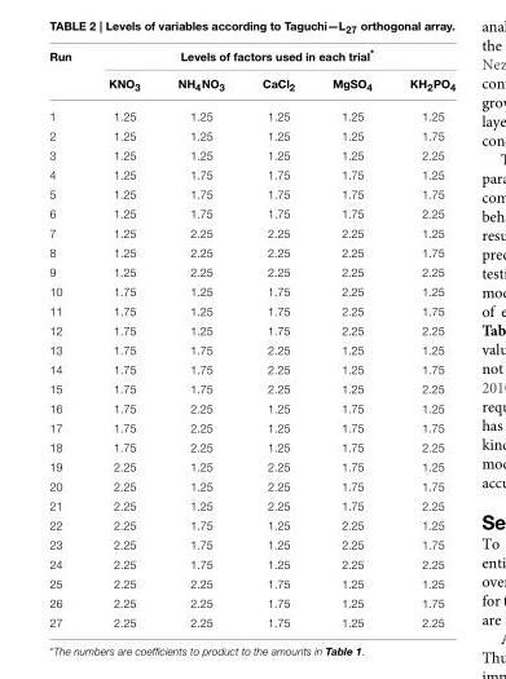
<table><thead><tr><td rowspan="2">Run</td><td colspan="5">Levels of factors used in each trial*</td></tr><tr><td>KNO<sub>3</sub></td><td>NH<sub>4</sub>NO<sub>3</sub></td><td>CaCl<sub>2</sub></td><td>MgSO<sub>4</sub></td><td>KH<sub>2</sub>PO<sub>4</sub></td></tr></thead><tbody><tr><td>1</td><td>1.25</td><td>1.25</td><td>1.25</td><td>1.25</td><td>1.25</td></tr><tr><td>2</td><td>1.25</td><td>1.25</td><td>1.25</td><td>1.25</td><td>1.75</td></tr><tr><td>3</td><td>1.25</td><td>1.25</td><td>1.25</td><td>1.25</td><td>2.25</td></tr><tr><td>4</td><td>1.25</td><td>1.75</td><td>1.75</td><td>1.75</td><td>1.25</td></tr><tr><td>5</td><td>1.25</td><td>1.75</td><td>1.75</td><td>1.75</td><td>1.75</td></tr><tr><td>6</td><td>1.25</td><td>1.75</td><td>1.75</td><td>1.75</td><td>2.25</td></tr><tr><td>7</td><td>1.25</td><td>2.25</td><td>2.25</td><td>2.25</td><td>1.25</td></tr><tr><td>8</td><td>1.25</td><td>2.25</td><td>2.25</td><td>2.25</td><td>1.75</td></tr><tr><td>9</td><td>1.25</td><td>2.25</td><td>2.25</td><td>2.25</td><td>2.25</td></tr><tr><td>10</td><td>1.75</td><td>1.25</td><td>1.75</td><td>2.25</td><td>1.25</td></tr><tr><td>11</td><td>1.75</td><td>1.25</td><td>1.75</td><td>2.25</td><td>1.75</td></tr><tr><td>12</td><td>1.75</td><td>1.25</td><td>1.75</td><td>2.25</td><td>2.25</td></tr><tr><td>13</td><td>1.75</td><td>1.75</td><td>2.25</td><td>1.25</td><td>1.25</td></tr><tr><td>14</td><td>1.75</td><td>1.75</td><td>2.25</td><td>1.25</td><td>1.75</td></tr><tr><td>15</td><td>1.75</td><td>1.75</td><td>2.25</td><td>1.25</td><td>2.25</td></tr><tr><td>16</td><td>1.75</td><td>2.25</td><td>1.25</td><td>1.75</td><td>1.25</td></tr><tr><td>17</td><td>1.75</td><td>2.25</td><td>1.25</td><td>1.75</td><td>1.75</td></tr><tr><td>18</td><td>1.75</td><td>2.25</td><td>1.25</td><td>1.75</td><td>2.25</td></tr><tr><td>19</td><td>2.25</td><td>1.25</td><td>2.25</td><td>1.75</td><td>1.25</td></tr><tr><td>20</td><td>2.25</td><td>1.25</td><td>2.25</td><td>1.75</td><td>1.75</td></tr><tr><td>21</td><td>2.25</td><td>1.25</td><td>2.25</td><td>1.75</td><td>2.25</td></tr><tr><td>22</td><td>2.25</td><td>1.75</td><td>1.25</td><td>2.25</td><td>1.25</td></tr><tr><td>23</td><td>2.25</td><td>1.75</td><td>1.25</td><td>2.25</td><td>1.75</td></tr><tr><td>24</td><td>2.25</td><td>1.75</td><td>1.25</td><td>2.25</td><td>2.25</td></tr><tr><td>25</td><td>2.25</td><td>2.25</td><td>1.75</td><td>1.25</td><td>1.25</td></tr><tr><td>26</td><td>2.25</td><td>2.25</td><td>1.75</td><td>1.25</td><td>1.75</td></tr><tr><td>27</td><td>2.25</td><td>2.25</td><td>1.75</td><td>1.25</td><td>2.25</td></tr></tbody></table>